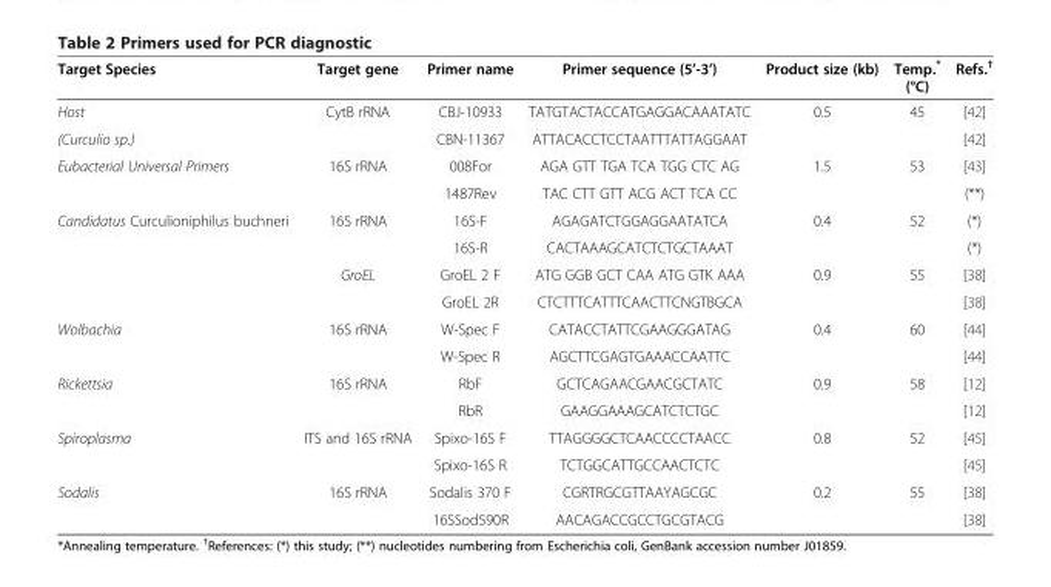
<table><thead><tr><td>Target Species</td><td>Target gene</td><td>Primer name</td><td>Primer sequence (5’-3’)</td><td>Product size (kb)</td><td>Temp.* (°C)</td><td>Refs.<sup>†</sup></td></tr></thead><tbody><tr><td>Host</td><td>CytB rRNA</td><td>CBJ-10933</td><td>TATGTACTACCATGAGGACAAATATC</td><td>0.5</td><td>45</td><td>[42]</td></tr><tr><td>(Curculio sp.)</td><td></td><td>CBN-11367</td><td>ATTACACCTCCTAATTTATTAGGAAT</td><td></td><td></td><td>[42]</td></tr><tr><td rowspan="2">Eubacterial Universal Primers</td><td>16S rRNA</td><td>008For</td><td>AGA GTT TGA TCA TGG CTC AG</td><td>1.5</td><td>53</td><td>[43]</td></tr><tr><td></td><td>1487Rev</td><td>TAC CTT GTT ACG ACT TCA CC</td><td></td><td></td><td>(**)</td></tr><tr><td rowspan="4">Candidatus Curculioniphilus buchneri</td><td>16S rRNA</td><td>16S-F</td><td>AGAGATCTGGAGGAATATCA</td><td>0.4</td><td>52</td><td>(*)</td></tr><tr><td></td><td>16S-R</td><td>CACTAAAGCATCTCTGCTAAAT</td><td></td><td></td><td>(*)</td></tr><tr><td>GroEL</td><td>GroEL 2 F</td><td>ATG GGB GCT CAA ATG GTK AAA</td><td>0.9</td><td>55</td><td>[38]</td></tr><tr><td></td><td>GroEL 2R</td><td>CTCTTTCATTTCAACTTCNGTBGCA</td><td></td><td></td><td>[38]</td></tr><tr><td rowspan="2">Wolbachia</td><td>16S rRNA</td><td>W-Spec F</td><td>CATACCTATTCGAAGGGATAG</td><td>0.4</td><td>60</td><td>[44]</td></tr><tr><td></td><td>W-Spec R</td><td>AGCTTCGAGTGAAACCAATTC</td><td></td><td></td><td>[44]</td></tr><tr><td rowspan="2">Rickettsia</td><td>16S rRNA</td><td>RbF</td><td>GCTCAGAACGAACGCTATC</td><td>0.9</td><td>58</td><td>[12]</td></tr><tr><td></td><td>RbR</td><td>GAAGGAAAGCATCTCTGC</td><td></td><td></td><td>[12]</td></tr><tr><td rowspan="2">Spiroplasma</td><td>ITS and 16S rRNA</td><td>Spixo-16S F</td><td>TTAGGGGCTCAACCCCTAACC</td><td>0.8</td><td>52</td><td>[45]</td></tr><tr><td></td><td>Spixo-16S R</td><td>TCTGGCATTGCCAACTCTC</td><td></td><td></td><td>[45]</td></tr><tr><td rowspan="2">Sodalis</td><td>16S rRNA</td><td>Sodalis 370 F</td><td>CGRTRGCGTTAAYAGCGC</td><td>0.2</td><td>55</td><td>[38]</td></tr><tr><td></td><td>16SSod590R</td><td>AACAGACCGCCTGCGTACG</td><td></td><td></td><td>[38]</td></tr></tbody></table>